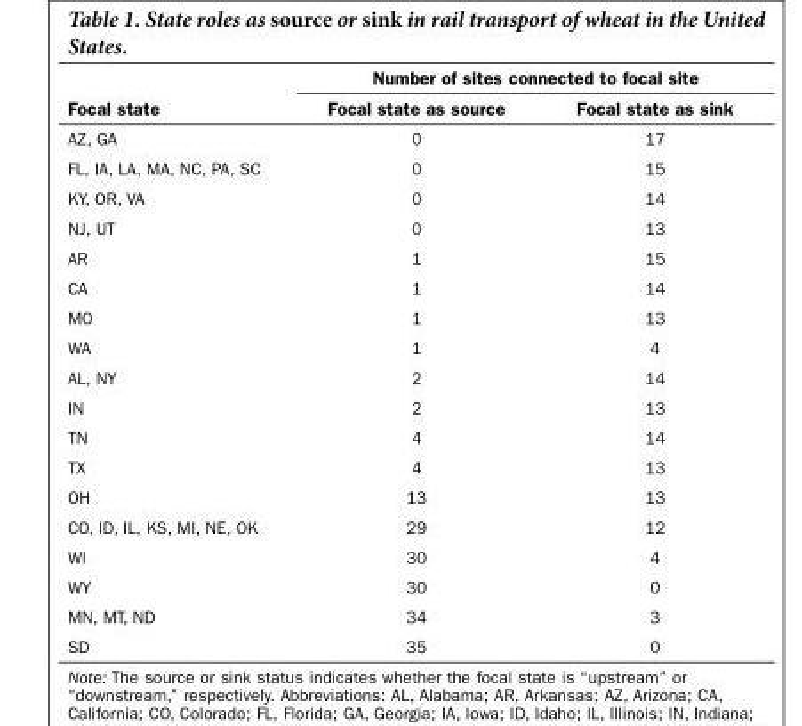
<table><thead><tr><td rowspan="2">Focal state</td><td colspan="2">Number of sites connected to focal site</td></tr><tr><td>Focal state as source</td><td>Focal state as sink</td></tr></thead><tbody><tr><td>AZ, GA</td><td>0</td><td>17</td></tr><tr><td>FL, IA, LA, MA, NC, PA, SC</td><td>0</td><td>15</td></tr><tr><td>KY, OR, VA</td><td>0</td><td>14</td></tr><tr><td>NJ, UT</td><td>0</td><td>13</td></tr><tr><td>AR</td><td>1</td><td>15</td></tr><tr><td>CA</td><td>1</td><td>14</td></tr><tr><td>MO</td><td>1</td><td>13</td></tr><tr><td>WA</td><td>1</td><td>4</td></tr><tr><td>AL, NY</td><td>2</td><td>14</td></tr><tr><td>IN</td><td>2</td><td>13</td></tr><tr><td>TN</td><td>4</td><td>14</td></tr><tr><td>TX</td><td>4</td><td>13</td></tr><tr><td>OH</td><td>13</td><td>13</td></tr><tr><td>CO, ID, IL, KS, MI, NE, OK</td><td>29</td><td>12</td></tr><tr><td>WI</td><td>30</td><td>4</td></tr><tr><td>WY</td><td>30</td><td>0</td></tr><tr><td>MN, MT, ND</td><td>34</td><td>3</td></tr><tr><td>SD</td><td>35</td><td>0</td></tr></tbody></table>